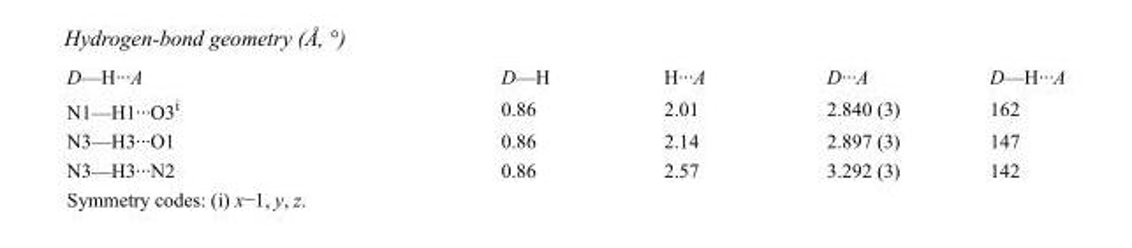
<table><tbody><tr><td>D—H···A</td><td>D—H</td><td>H···A</td><td>D···A</td><td>D—H···A</td></tr><tr><td>N1—H1···O3<sup>i</sup></td><td>0.86</td><td>2.01</td><td>2.840 (3)</td><td>162</td></tr><tr><td>N3—H3···O1</td><td>0.86</td><td>2.14</td><td>2.897 (3)</td><td>147</td></tr><tr><td>N3—H3···N2</td><td>0.86</td><td>2.57</td><td>3.292 (3)</td><td>142</td></tr></tbody></table>